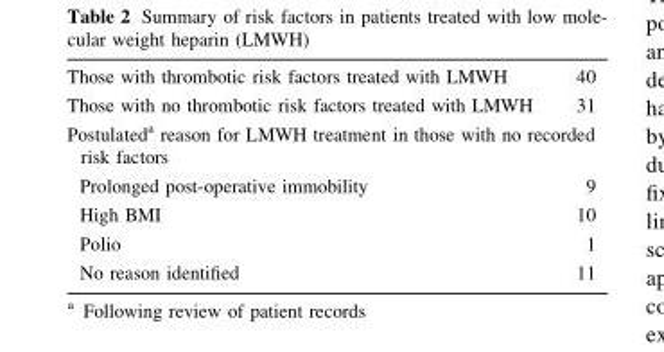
<table><tbody><tr><td>Those with thrombotic risk factors treated with LMWH</td><td>40</td></tr><tr><td>Those with no thrombotic risk factors treated with LMWH</td><td>31</td></tr><tr><td colspan="2">Postulated<sup>a</sup> reason for LMWH treatment in those with no recorded risk factors</td></tr><tr><td>Prolonged post-operative immobility</td><td>9</td></tr><tr><td>High BMI</td><td>10</td></tr><tr><td>Polio</td><td>1</td></tr><tr><td>No reason identified</td><td>11</td></tr></tbody></table>